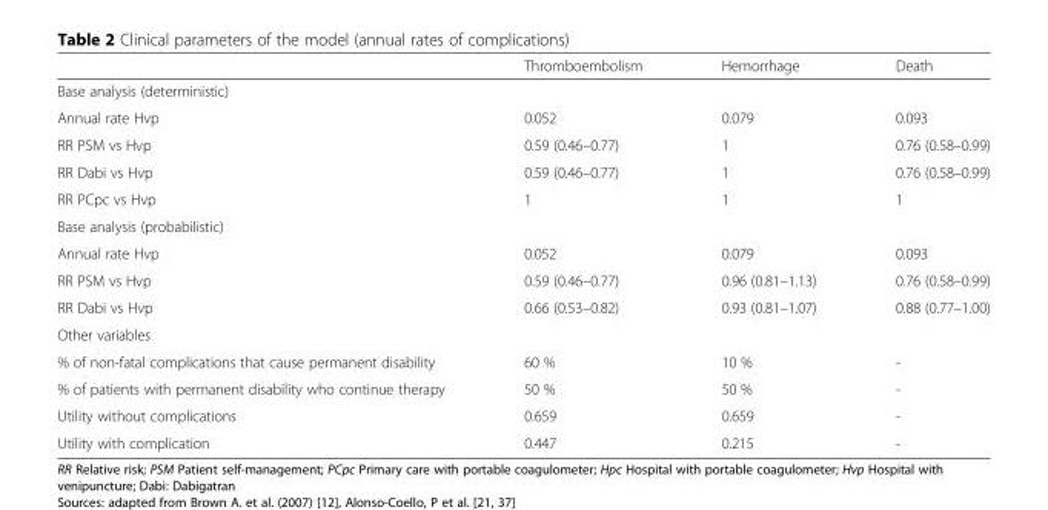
<table><thead><tr><td></td><td>Thromboembolism</td><td>Hemorrhage</td><td>Death</td></tr></thead><tbody><tr><td colspan="4">Base analysis (deterministic)</td></tr><tr><td>Annual rate Hvp</td><td>0.052</td><td>0.079</td><td>0.093</td></tr><tr><td>RR PSM vs Hvp</td><td>0.59 (0.46–0.77)</td><td>1</td><td>0.76 (0.58–0.99)</td></tr><tr><td>RR Dabi vs Hvp</td><td>0.59 (0.46–0.77)</td><td>1</td><td>0.76 (0.58–0.99)</td></tr><tr><td>RR PCpc vs Hvp</td><td>1</td><td>1</td><td>1</td></tr><tr><td colspan="4">Base analysis (probabilistic)</td></tr><tr><td>Annual rate Hvp</td><td>0.052</td><td>0.079</td><td>0.093</td></tr><tr><td>RR PSM vs Hvp</td><td>0.59 (0.46–0.77)</td><td>0.96 (0.81–1.13)</td><td>0.76 (0.58–0.99)</td></tr><tr><td>RR Dabi vs Hvp</td><td>0.66 (0.53–0.82)</td><td>0.93 (0.81–1.07)</td><td>0.88 (0.77–1.00)</td></tr><tr><td colspan="4">Other variables</td></tr><tr><td>% of non-fatal complications that cause permanent disability</td><td>60 %</td><td>10 %</td><td>-</td></tr><tr><td>% of patients with permanent disability who continue therapy</td><td>50 %</td><td>50 %</td><td>-</td></tr><tr><td>Utility without complications</td><td>0.659</td><td>0.659</td><td>-</td></tr><tr><td>Utility with complication</td><td>0.447</td><td>0.215</td><td>-</td></tr></tbody></table>